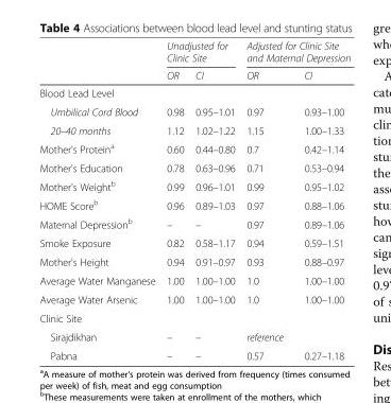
<table><thead><tr><td rowspan="2"></td><td colspan="2">Unadjusted for Clinic Site</td><td colspan="2">Adjusted for Clinic Site and Maternal Depression</td></tr><tr><td>OR</td><td>CI</td><td>OR</td><td>CI</td></tr></thead><tbody><tr><td colspan="5">Blood Lead Level</td></tr><tr><td>Umbilical Cord Blood</td><td>0.98</td><td>0.95–1.01</td><td>0.97</td><td>0.93–1.00</td></tr><tr><td>20–40 months</td><td>1.12</td><td>1.02–1.22</td><td>1.15</td><td>1.00–1.33</td></tr><tr><td>Mother&#x27;s Protein<sup>a</sup></td><td>0.60</td><td>0.44–0.80</td><td>0.7</td><td>0.42–1.14</td></tr><tr><td>Mother&#x27;s Education</td><td>0.78</td><td>0.63–0.96</td><td>0.71</td><td>0.53–0.94</td></tr><tr><td>Mother&#x27;s Weight<sup>b</sup></td><td>0.99</td><td>0.96–1.01</td><td>0.99</td><td>0.95–1.02</td></tr><tr><td>HOME Score<sup>b</sup></td><td>0.96</td><td>0.89–1.03</td><td>0.97</td><td>0.88–1.06</td></tr><tr><td>Maternal Depression<sup>b</sup></td><td>–</td><td>–</td><td>0.97</td><td>0.89–1.06</td></tr><tr><td>Smoke Exposure</td><td>0.82</td><td>0.58–1.17</td><td>0.94</td><td>0.59–1.51</td></tr><tr><td>Mother&#x27;s Height</td><td>0.94</td><td>0.91–0.97</td><td>0.93</td><td>0.88–0.97</td></tr><tr><td>Average Water Manganese</td><td>1.00</td><td>1.00–1.00</td><td>1.0</td><td>1.00–1.00</td></tr><tr><td>Average Water Arsenic</td><td>1.00</td><td>1.00–1.00</td><td>1.0</td><td>1.00–1.00</td></tr><tr><td colspan="5">Clinic Site</td></tr><tr><td>Sirajdikhan</td><td>–</td><td>–</td><td>reference</td><td></td></tr><tr><td>Pabna</td><td>–</td><td>–</td><td>0.57</td><td>0.27–1.18</td></tr></tbody></table>